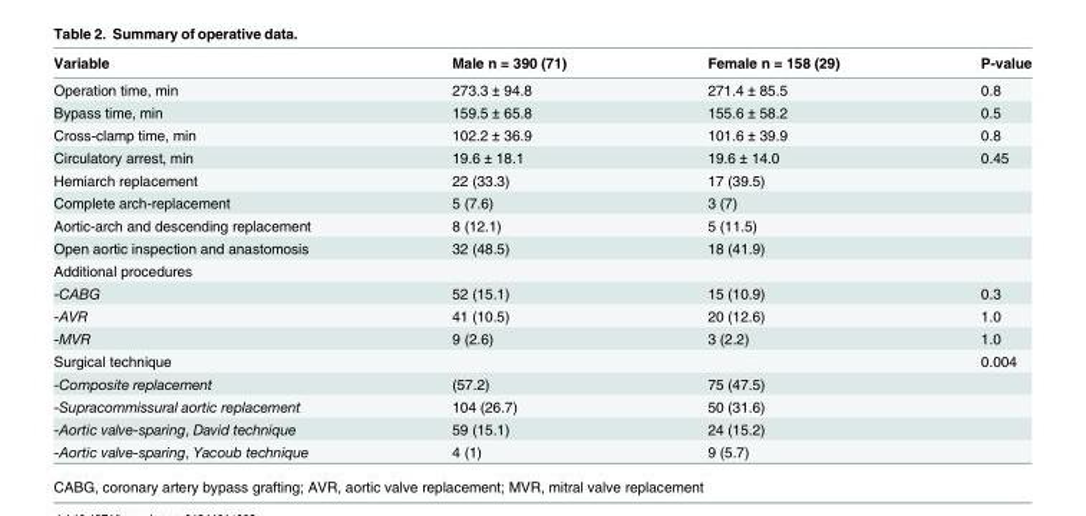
<table><thead><tr><td>Variable</td><td>Male n = 390 (71)</td><td>Female n = 158 (29)</td><td>P-value</td></tr></thead><tbody><tr><td>Operation time, min</td><td>273.3 ± 94.8</td><td>271.4 ± 85.5</td><td>0.8</td></tr><tr><td>Bypass time, min</td><td>159.5 ± 65.8</td><td>155.6 ± 58.2</td><td>0.5</td></tr><tr><td>Cross-clamp time, min</td><td>102.2 ± 36.9</td><td>101.6 ± 39.9</td><td>0.8</td></tr><tr><td>Circulatory arrest, min</td><td>19.6 ± 18.1</td><td>19.6 ± 14.0</td><td>0.45</td></tr><tr><td>Hemiarch replacement</td><td>22 (33.3)</td><td>17 (39.5)</td><td></td></tr><tr><td>Complete arch-replacement</td><td>5 (7.6)</td><td>3 (7)</td><td></td></tr><tr><td>Aortic-arch and descending replacement</td><td>8 (12.1)</td><td>5 (11.5)</td><td></td></tr><tr><td>Open aortic inspection and anastomosis</td><td>32 (48.5)</td><td>18 (41.9)</td><td></td></tr><tr><td colspan="4">Additional procedures</td></tr><tr><td>-CABG</td><td>52 (15.1)</td><td>15 (10.9)</td><td>0.3</td></tr><tr><td>-AVR</td><td>41 (10.5)</td><td>20 (12.6)</td><td>1.0</td></tr><tr><td>-MVR</td><td>9 (2.6)</td><td>3 (2.2)</td><td>1.0</td></tr><tr><td>Surgical technique</td><td></td><td></td><td>0.004</td></tr><tr><td>-Composite replacement</td><td>(57.2)</td><td>75 (47.5)</td><td></td></tr><tr><td>-Supracommissural aortic replacement</td><td>104 (26.7)</td><td>50 (31.6)</td><td></td></tr><tr><td>-Aortic valve-sparing, David technique</td><td>59 (15.1)</td><td>24 (15.2)</td><td></td></tr><tr><td>-Aortic valve-sparing, Yacoub technique</td><td>4 (1)</td><td>9 (5.7)</td><td></td></tr></tbody></table>